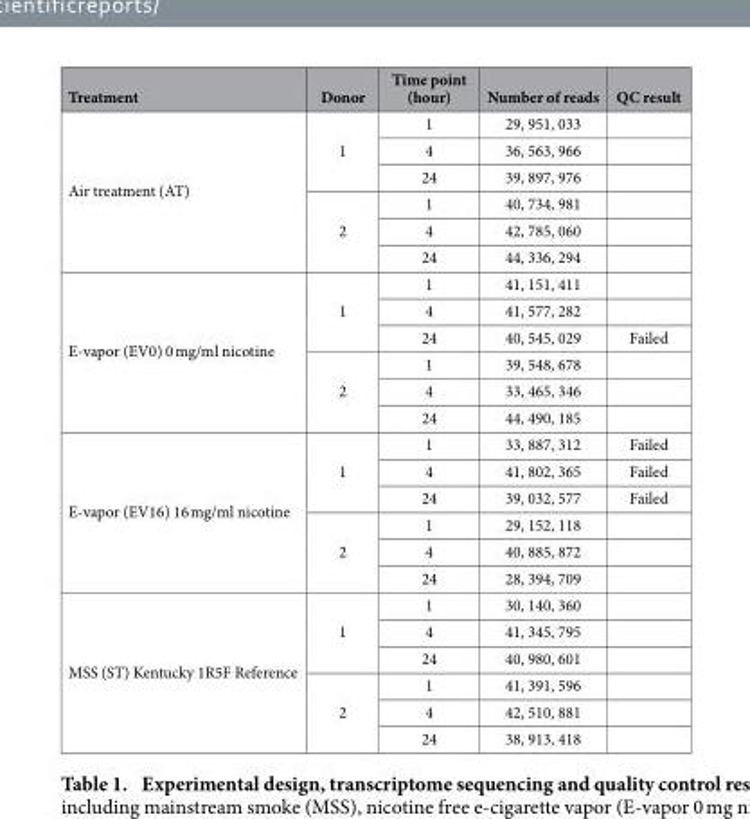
<table><thead><tr><td>Treatment</td><td>Donor</td><td>Time point (hour)</td><td>Number of reads</td><td>QC result</td></tr></thead><tbody><tr><td rowspan="6">Air treatment (AT)</td><td rowspan="3">1</td><td>1</td><td>29, 951, 033</td><td></td></tr><tr><td>4</td><td>36, 563, 966</td><td></td></tr><tr><td>24</td><td>39, 897, 976</td><td></td></tr><tr><td rowspan="3">2</td><td>1</td><td>40, 734, 981</td><td></td></tr><tr><td>4</td><td>42, 785, 060</td><td></td></tr><tr><td>24</td><td>44, 336, 294</td><td></td></tr><tr><td rowspan="6">E-vapor (EV0) 0 mg/ml nicotine</td><td rowspan="3">1</td><td>1</td><td>41, 151, 411</td><td></td></tr><tr><td>4</td><td>41, 577, 282</td><td></td></tr><tr><td>24</td><td>40, 545, 029</td><td>Failed</td></tr><tr><td rowspan="3">2</td><td>1</td><td>39, 548, 678</td><td></td></tr><tr><td>4</td><td>33, 465, 346</td><td></td></tr><tr><td>24</td><td>44, 490, 185</td><td></td></tr><tr><td rowspan="6">E-vapor (EV16) 16 mg/ml nicotine</td><td rowspan="3">1</td><td>1</td><td>33, 887, 312</td><td>Failed</td></tr><tr><td>4</td><td>41, 802, 365</td><td>Failed</td></tr><tr><td>24</td><td>39, 032, 577</td><td>Failed</td></tr><tr><td rowspan="3">2</td><td>1</td><td>29, 152, 118</td><td></td></tr><tr><td>4</td><td>40, 885, 872</td><td></td></tr><tr><td>24</td><td>28, 394, 709</td><td></td></tr><tr><td rowspan="6">MSS (ST) Kentucky 1R5F Reference</td><td rowspan="3">1</td><td>1</td><td>30, 140, 360</td><td></td></tr><tr><td>4</td><td>41, 345, 795</td><td></td></tr><tr><td>24</td><td>40, 980, 601</td><td></td></tr><tr><td rowspan="3">2</td><td>1</td><td>41, 391, 596</td><td></td></tr><tr><td>4</td><td>42, 510, 881</td><td></td></tr><tr><td>24</td><td>38, 913, 418</td><td></td></tr></tbody></table>